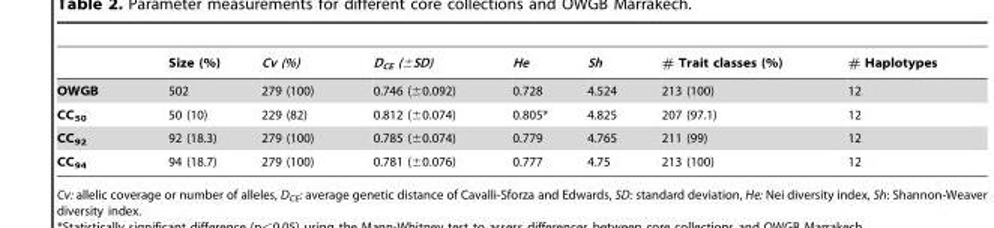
<table><thead><tr><td></td><td>Size (%)</td><td>Cv (%)</td><td>D<sub>CE</sub> (±SD)</td><td>He</td><td>Sh</td><td># Trait classes (%)</td><td># Haplotypes</td></tr></thead><tbody><tr><td>OWGB</td><td>502</td><td>279 (100)</td><td>0.746 (±0.092)</td><td>0.728</td><td>4.524</td><td>213 (100)</td><td>12</td></tr><tr><td>CC<sub>50</sub></td><td>50 (10)</td><td>229 (82)</td><td>0.812 (±0.074)</td><td>0.805*</td><td>4.825</td><td>207 (97.1)</td><td>12</td></tr><tr><td>CC<sub>92</sub></td><td>92 (18.3)</td><td>279 (100)</td><td>0.785 (±0.074)</td><td>0.779</td><td>4.765</td><td>211 (99)</td><td>12</td></tr><tr><td>CC<sub>94</sub></td><td>94 (18.7)</td><td>279 (100)</td><td>0.781 (±0.076)</td><td>0.777</td><td>4.75</td><td>213 (100)</td><td>12</td></tr></tbody></table>